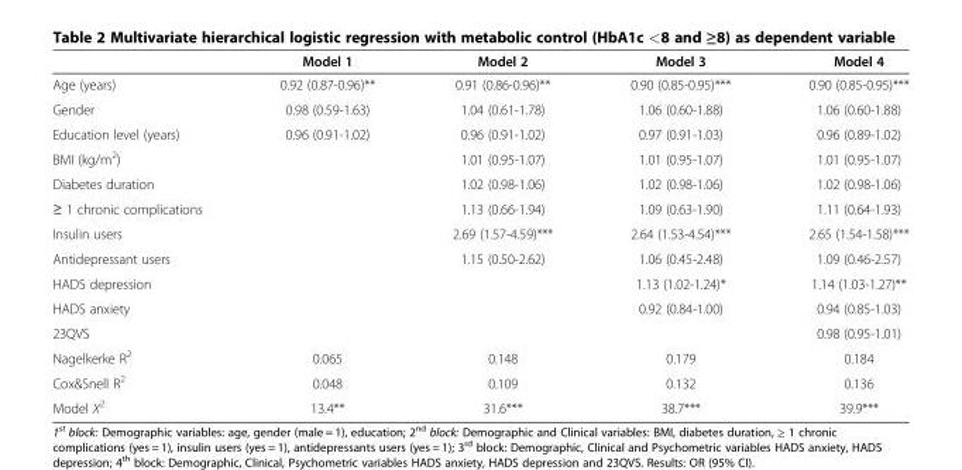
<table><thead><tr><td></td><td>Model 1</td><td>Model 2</td><td>Model 3</td><td>Model 4</td></tr></thead><tbody><tr><td>Age (years)</td><td>0.92 (0.87-0.96)**</td><td>0.91 (0.86-0.96)**</td><td>0.90 (0.85-0.95)***</td><td>0.90 (0.85-0.95)***</td></tr><tr><td>Gender</td><td>0.98 (0.59-1.63)</td><td>1.04 (0.61-1.78)</td><td>1.06 (0.60-1.88)</td><td>1.06 (0.60-1.88)</td></tr><tr><td>Education level (years)</td><td>0.96 (0.91-1.02)</td><td>0.96 (0.91-1.02)</td><td>0.97 (0.91-1.03)</td><td>0.96 (0.89-1.02)</td></tr><tr><td>BMI (kg/m<sup>2</sup>)</td><td></td><td>1.01 (0.95-1.07)</td><td>1.01 (0.95-1.07)</td><td>1.01 (0.95-1.07)</td></tr><tr><td>Diabetes duration</td><td></td><td>1.02 (0.98-1.06)</td><td>1.02 (0.98-1.06)</td><td>1.02 (0.98-1.06)</td></tr><tr><td>≥ 1 chronic complications</td><td></td><td>1.13 (0.66-1.94)</td><td>1.09 (0.63-1.90)</td><td>1.11 (0.64-1.93)</td></tr><tr><td>Insulin users</td><td></td><td>2.69 (1.57-4.59)***</td><td>2.64 (1.53-4.54)***</td><td>2.65 (1.54-1.58)***</td></tr><tr><td>Antidepressant users</td><td></td><td>1.15 (0.50-2.62)</td><td>1.06 (0.45-2.48)</td><td>1.09 (0.46-2.57)</td></tr><tr><td>HADS depression</td><td></td><td></td><td>1.13 (1.02-1.24)*</td><td>1.14 (1.03-1.27)**</td></tr><tr><td>HADS anxiety</td><td></td><td></td><td>0.92 (0.84-1.00)</td><td>0.94 (0.85-1.03)</td></tr><tr><td>23QVS</td><td></td><td></td><td></td><td>0.98 (0.95-1.01)</td></tr><tr><td>Nagelkerke R<sup>2</sup></td><td>0.065</td><td>0.148</td><td>0.179</td><td>0.184</td></tr><tr><td>Cox&amp;Snell R<sup>2</sup></td><td>0.048</td><td>0.109</td><td>0.132</td><td>0.136</td></tr><tr><td>Model X<sup>2</sup></td><td>13.4**</td><td>31.6***</td><td>38.7***</td><td>39.9***</td></tr></tbody></table>